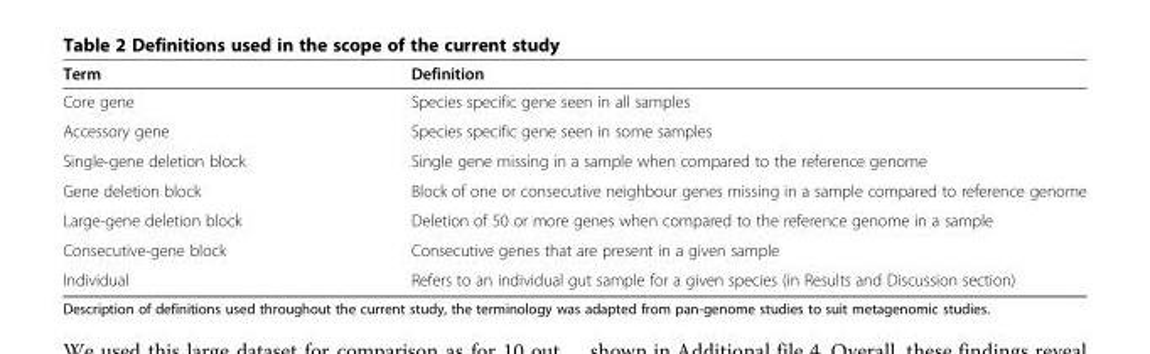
<table><thead><tr><td>Term</td><td>Definition</td></tr></thead><tbody><tr><td>Core gene</td><td>Species specific gene seen in all samples</td></tr><tr><td>Accessory gene</td><td>Species specific gene seen in some samples</td></tr><tr><td>Single-gene deletion block</td><td>Single gene missing in a sample when compared to the reference genome</td></tr><tr><td>Gene deletion block</td><td>Block of one or consecutive neighbour genes missing in a sample compared to reference genome</td></tr><tr><td>Large-gene deletion block</td><td>Deletion of 50 or more genes when compared to the reference genome in a sample</td></tr><tr><td>Consecutive-gene block</td><td>Consecutive genes that are present in a given sample</td></tr><tr><td>Individual</td><td>Refers to an individual gut sample for a given species (in Results and Discussion section)</td></tr></tbody></table>